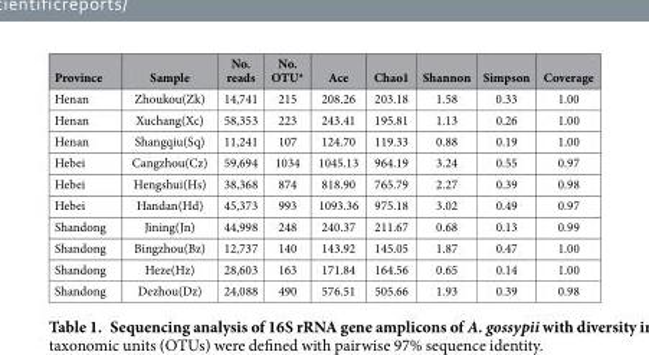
<table><thead><tr><td>Province</td><td>Sample</td><td>No. reads</td><td>No. OTU*</td><td>Ace</td><td>Chao1</td><td>Shannon</td><td>Simpson</td><td>Coverage</td></tr></thead><tbody><tr><td>Henan</td><td>Zhoukou(Zk)</td><td>14,741</td><td>215</td><td>208.26</td><td>203.18</td><td>1.58</td><td>0.33</td><td>1.00</td></tr><tr><td>Henan</td><td>Xuchang(Xc)</td><td>58,353</td><td>223</td><td>243.41</td><td>195.81</td><td>1.13</td><td>0.26</td><td>1.00</td></tr><tr><td>Henan</td><td>Shangqiu(Sq)</td><td>11,241</td><td>107</td><td>124.70</td><td>119.33</td><td>0.88</td><td>0.19</td><td>1.00</td></tr><tr><td>Hebei</td><td>Cangzhou(Cz)</td><td>59,694</td><td>1034</td><td>1045.13</td><td>964.19</td><td>3.24</td><td>0.55</td><td>0.97</td></tr><tr><td>Hebei</td><td>Hengshui(Hs)</td><td>38,368</td><td>874</td><td>818.90</td><td>765.79</td><td>2.27</td><td>0.39</td><td>0.98</td></tr><tr><td>Hebei</td><td>Handan(Hd)</td><td>45,373</td><td>993</td><td>1093.36</td><td>975.18</td><td>3.02</td><td>0.49</td><td>0.97</td></tr><tr><td>Shandong</td><td>Jining(Jn)</td><td>44,998</td><td>248</td><td>240.37</td><td>211.67</td><td>0.68</td><td>0.13</td><td>0.99</td></tr><tr><td>Shandong</td><td>Bingzhou(Bz)</td><td>12,737</td><td>140</td><td>143.92</td><td>145.05</td><td>1.87</td><td>0.47</td><td>1.00</td></tr><tr><td>Shandong</td><td>Heze(Hz)</td><td>28,603</td><td>163</td><td>171.84</td><td>164.56</td><td>0.65</td><td>0.14</td><td>1.00</td></tr><tr><td>Shandong</td><td>Dezhou(Dz)</td><td>24,088</td><td>490</td><td>576.51</td><td>505.66</td><td>1.93</td><td>0.39</td><td>0.98</td></tr></tbody></table>